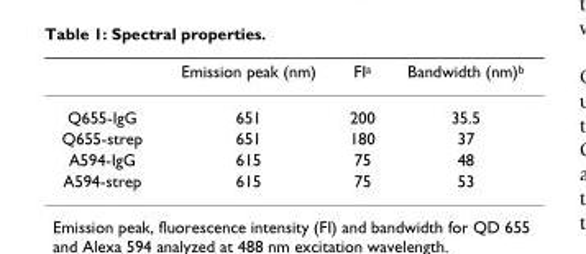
<table><thead><tr><td></td><td>Emission peak (nm)</td><td>FI<sup>a</sup></td><td>Bandwidth (nm)<sup>b</sup></td></tr></thead><tbody><tr><td>Q655-IgG</td><td>651</td><td>200</td><td>35.5</td></tr><tr><td>Q655-strep</td><td>651</td><td>180</td><td>37</td></tr><tr><td>A594-IgG</td><td>615</td><td>75</td><td>48</td></tr><tr><td>A594-strep</td><td>615</td><td>75</td><td>53</td></tr></tbody></table>